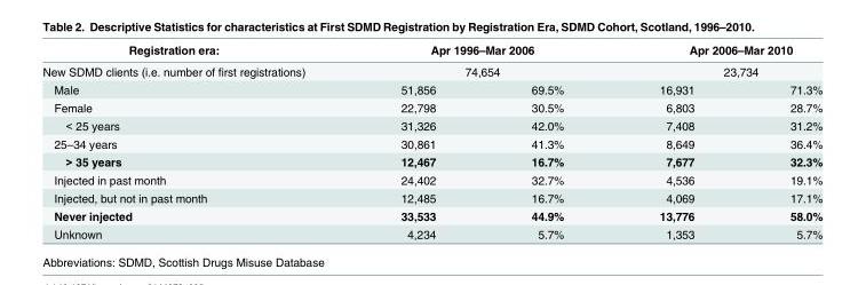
<table><thead><tr><td rowspan="3">Registration era: New SDMD clients (i.e. number of first registrations) Male</td><td rowspan="2" colspan="2">Apr 1996–Mar 2006 74,654</td><td rowspan="2" colspan="2">Apr 2006–Mar 2010 23,734</td></tr><tr></tr><tr><td>51,856</td><td>69.5%</td><td>16,931</td><td>71.3%</td></tr></thead><tbody><tr><td>Female</td><td>22,798</td><td>30.5%</td><td>6,803</td><td>28.7%</td></tr><tr><td>&lt; 25 years</td><td>31,326</td><td>42.0%</td><td>7,408</td><td>31.2%</td></tr><tr><td>25–34 years</td><td>30,861</td><td>41.3%</td><td>8,649</td><td>36.4%</td></tr><tr><td>&gt; 35 years</td><td>12,467</td><td>16.7%</td><td>7,677</td><td>32.3%</td></tr><tr><td>Injected in past month</td><td>24,402</td><td>32.7%</td><td>4,536</td><td>19.1%</td></tr><tr><td>Injected, but not in past month</td><td>12,485</td><td>16.7%</td><td>4,069</td><td>17.1%</td></tr><tr><td>Never injected</td><td>33,533</td><td>44.9%</td><td>13,776</td><td>58.0%</td></tr><tr><td>Unknown</td><td>4,234</td><td>5.7%</td><td>1,353</td><td>5.7%</td></tr></tbody></table>